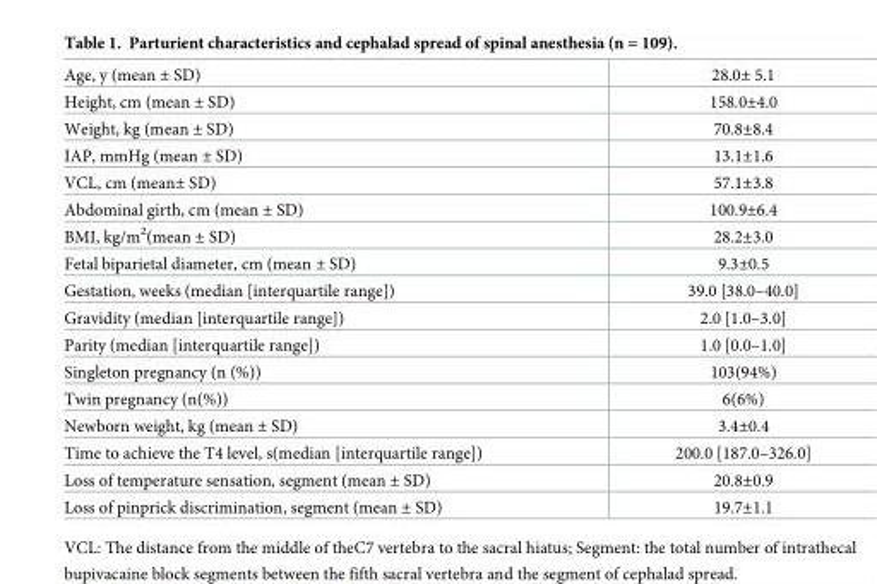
<table><tbody><tr><td>Age, y (mean ± SD)</td><td>28.0± 5.1</td></tr><tr><td>Height, cm (mean ± SD)</td><td>158.0±4.0</td></tr><tr><td>Weight, kg (mean ± SD)</td><td>70.8±8.4</td></tr><tr><td>IAP, mmHg (mean ± SD)</td><td>13.1±1.6</td></tr><tr><td>VCL, cm (mean± SD)</td><td>57.1±3.8</td></tr><tr><td>Abdominal girth, cm (mean ± SD)</td><td>100.9±6.4</td></tr><tr><td>BMI, kg/m<sup>2</sup>(mean ± SD)</td><td>28.2±3.0</td></tr><tr><td>Fetal biparietal diameter, cm (mean ± SD)</td><td>9.3±0.5</td></tr><tr><td>Gestation, weeks (median [interquartile range])</td><td>39.0 [38.0–40.0]</td></tr><tr><td>Gravidity (median [interquartile range])</td><td>2.0 [1.0–3.0]</td></tr><tr><td>Parity (median [interquartile range])</td><td>1.0 [0.0–1.0]</td></tr><tr><td>Singleton pregnancy (n (%))</td><td>103(94%)</td></tr><tr><td>Twin pregnancy (n(%))</td><td>6(6%)</td></tr><tr><td>Newborn weight, kg (mean ± SD)</td><td>3.4±0.4</td></tr><tr><td>Time to achieve the T4 level, s(median [interquartile range])</td><td>200.0 [187.0–326.0]</td></tr><tr><td>Loss of temperature sensation, segment (mean ± SD)</td><td>20.8±0.9</td></tr><tr><td>Loss of pinprick discrimination, segment (mean ± SD)</td><td>19.7±1.1</td></tr></tbody></table>